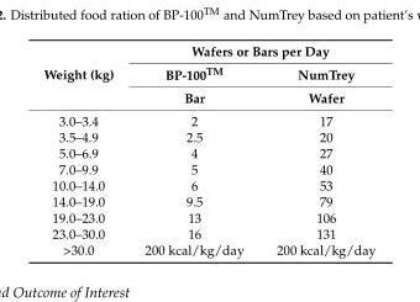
<table><thead><tr><td rowspan="3">Weight (kg)</td><td colspan="2">Wafers or Bars per Day</td></tr><tr><td rowspan="2">BP-100<sup>TM</sup> Bar</td><td rowspan="2">NumTrey Wafer</td></tr><tr></tr></thead><tbody><tr><td>3.0–3.4</td><td>2</td><td>17</td></tr><tr><td>3.5–4.9</td><td>2.5</td><td>20</td></tr><tr><td>5.0–6.9</td><td>4</td><td>27</td></tr><tr><td>7.0–9.9</td><td>5</td><td>40</td></tr><tr><td>10.0–14.0</td><td>6</td><td>53</td></tr><tr><td>14.0–19.0</td><td>9.5</td><td>79</td></tr><tr><td>19.0–23.0</td><td>13</td><td>106</td></tr><tr><td>23.0–30.0</td><td>16</td><td>131</td></tr><tr><td>&gt;30.0</td><td>200 kcal/kg/day</td><td>200 kcal/kg/day</td></tr></tbody></table>